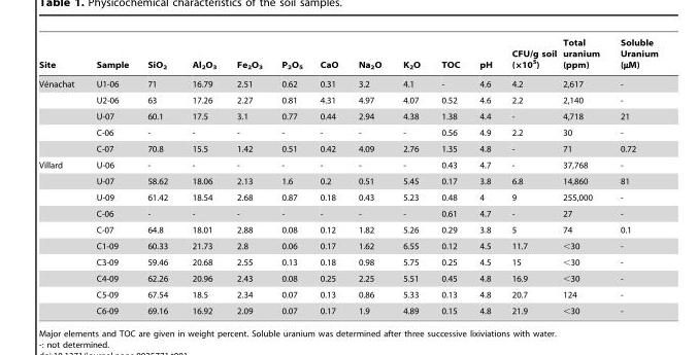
<table><thead><tr><td>Site</td><td>Sample</td><td>SiO<sub>2</sub></td><td>Al<sub>2</sub>O<sub>3</sub></td><td>Fe<sub>2</sub>O<sub>3</sub></td><td>P<sub>2</sub>O<sub>5</sub></td><td>CaO</td><td>Na<sub>2</sub>O</td><td>K<sub>2</sub>O</td><td>TOC</td><td>pH</td><td>CFU/g soil (×10<sup>5</sup>)</td><td>Total uranium (ppm)</td><td>Soluble Uranium (µM)</td></tr></thead><tbody><tr><td rowspan="5">Ve´nachat</td><td>U1-06</td><td>71</td><td>16.79</td><td>2.51</td><td>0.62</td><td>0.31</td><td>3.2</td><td>4.1</td><td>-</td><td>4.6</td><td>4.2</td><td>2,617</td><td>-</td></tr><tr><td>U2-06</td><td>63</td><td>17.26</td><td>2.27</td><td>0.81</td><td>4.31</td><td>4.97</td><td>4.07</td><td>0.52</td><td>4.6</td><td>2.2</td><td>2,140</td><td>-</td></tr><tr><td>U-07</td><td>60.1</td><td>17.5</td><td>3.1</td><td>0.77</td><td>0.44</td><td>2.94</td><td>4.38</td><td>1.38</td><td>4.4</td><td>-</td><td>4,718</td><td>21</td></tr><tr><td>C-06</td><td>-</td><td>-</td><td>-</td><td>-</td><td>-</td><td>-</td><td>-</td><td>0.56</td><td>4.9</td><td>2.2</td><td>30</td><td>-</td></tr><tr><td>C-07</td><td>70.8</td><td>15.5</td><td>1.42</td><td>0.51</td><td>0.42</td><td>4.09</td><td>2.76</td><td>1.35</td><td>4.8</td><td>-</td><td>71</td><td>0.72</td></tr><tr><td rowspan="10">Villard</td><td>U-06</td><td>-</td><td>-</td><td>-</td><td>-</td><td>-</td><td>-</td><td>-</td><td>0.43</td><td>4.7</td><td>-</td><td>37,768</td><td>-</td></tr><tr><td>U-07</td><td>58.62</td><td>18.06</td><td>2.13</td><td>1.6</td><td>0.2</td><td>0.51</td><td>5.45</td><td>0.17</td><td>3.8</td><td>6.8</td><td>14,860</td><td>81</td></tr><tr><td>U-09</td><td>61.42</td><td>18.54</td><td>2.68</td><td>0.87</td><td>0.18</td><td>0.43</td><td>5.23</td><td>0.48</td><td>4</td><td>9</td><td>255,000</td><td>-</td></tr><tr><td>C-06</td><td>-</td><td>-</td><td>-</td><td>-</td><td>-</td><td>-</td><td>-</td><td>0.61</td><td>4.7</td><td>-</td><td>27</td><td>-</td></tr><tr><td>C-07</td><td>64.8</td><td>18.01</td><td>2.88</td><td>0.08</td><td>0.12</td><td>1.82</td><td>5.26</td><td>0.29</td><td>3.8</td><td>5</td><td>74</td><td>0.1</td></tr><tr><td>C1-09</td><td>60.33</td><td>21.73</td><td>2.8</td><td>0.06</td><td>0.17</td><td>1.62</td><td>6.55</td><td>0.12</td><td>4.5</td><td>11.7</td><td>&lt;30</td><td>-</td></tr><tr><td>C3-09</td><td>59.46</td><td>20.68</td><td>2.55</td><td>0.13</td><td>0.18</td><td>0.98</td><td>5.75</td><td>0.25</td><td>4.5</td><td>15</td><td>&lt;30</td><td>-</td></tr><tr><td>C4-09</td><td>62.26</td><td>20.96</td><td>2.43</td><td>0.08</td><td>0.25</td><td>2.25</td><td>5.51</td><td>0.45</td><td>4.8</td><td>16.9</td><td>&lt;30</td><td>-</td></tr><tr><td>C5-09</td><td>67.54</td><td>18.5</td><td>2.34</td><td>0.07</td><td>0.13</td><td>0.86</td><td>5.33</td><td>0.13</td><td>4.8</td><td>20.7</td><td>124</td><td>-</td></tr><tr><td>C6-09</td><td>69.16</td><td>16.92</td><td>2.09</td><td>0.07</td><td>0.17</td><td>1.9</td><td>4.89</td><td>0.15</td><td>4.8</td><td>21.9</td><td>&lt;30</td><td>-</td></tr></tbody></table>